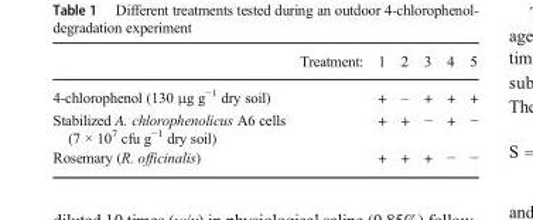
<table><thead><tr><td></td><td>Treatment:</td><td>1</td><td>2</td><td>3</td><td>4</td><td>5</td></tr></thead><tbody><tr><td>4-chlorophenol (130 μg g<sup>−1</sup> dry soil)</td><td></td><td>+</td><td>–</td><td>+</td><td>+</td><td>+</td></tr><tr><td>Stabilized A. chlorophenolicus A6 cells (7 × 10<sup>7</sup> cfu g<sup>−1</sup> dry soil)</td><td></td><td>+</td><td>+</td><td>−</td><td>+</td><td>−</td></tr><tr><td>Rosemary (R. officinalis)</td><td></td><td>+</td><td>+</td><td>+</td><td>−</td><td>−</td></tr></tbody></table>